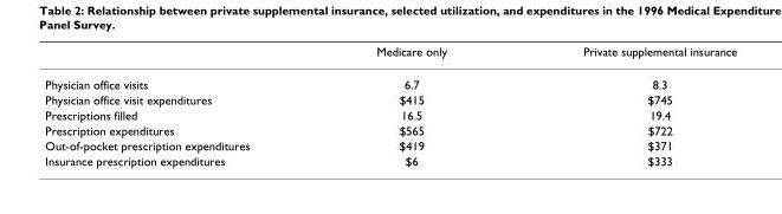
<table><thead><tr><td></td><td>Medicare only</td><td>Private supplemental insurance</td></tr></thead><tbody><tr><td>Physician office visits</td><td>6.7</td><td>8.3</td></tr><tr><td>Physician office visit expenditures</td><td>$415</td><td>$745</td></tr><tr><td>Prescriptions filled</td><td>16.5</td><td>19.4</td></tr><tr><td>Prescription expenditures</td><td>$565</td><td>$722</td></tr><tr><td>Out-of-pocket prescription expenditures</td><td>$419</td><td>$371</td></tr><tr><td>Insurance prescription expenditures</td><td>$6</td><td>$333</td></tr></tbody></table>